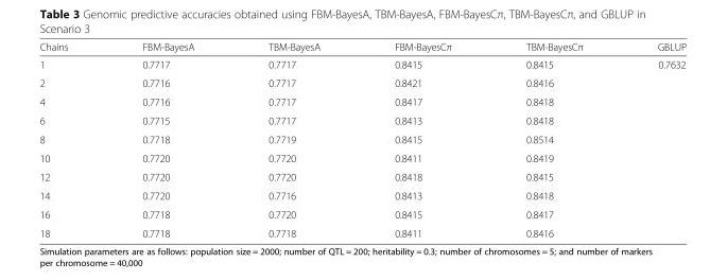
<table><thead><tr><td>Chains</td><td>FBM-BayesA</td><td>TBM-BayesA</td><td>FBM-BayesCπ</td><td>TBM-BayesCπ</td><td>GBLUP</td></tr></thead><tbody><tr><td>1</td><td>0.7717</td><td>0.7717</td><td>0.8415</td><td>0.8415</td><td rowspan="10">0.7632</td></tr><tr><td>2</td><td>0.7716</td><td>0.7717</td><td>0.8421</td><td>0.8416</td></tr><tr><td>4</td><td>0.7716</td><td>0.7717</td><td>0.8417</td><td>0.8418</td></tr><tr><td>6</td><td>0.7715</td><td>0.7717</td><td>0.8413</td><td>0.8418</td></tr><tr><td>8</td><td>0.7718</td><td>0.7719</td><td>0.8415</td><td>0.8514</td></tr><tr><td>10</td><td>0.7720</td><td>0.7720</td><td>0.8411</td><td>0.8419</td></tr><tr><td>12</td><td>0.7720</td><td>0.7720</td><td>0.8418</td><td>0.8415</td></tr><tr><td>14</td><td>0.7720</td><td>0.7716</td><td>0.8413</td><td>0.8418</td></tr><tr><td>16</td><td>0.7718</td><td>0.7720</td><td>0.8415</td><td>0.8417</td></tr><tr><td>18</td><td>0.7718</td><td>0.7718</td><td>0.8411</td><td>0.8416</td></tr></tbody></table>